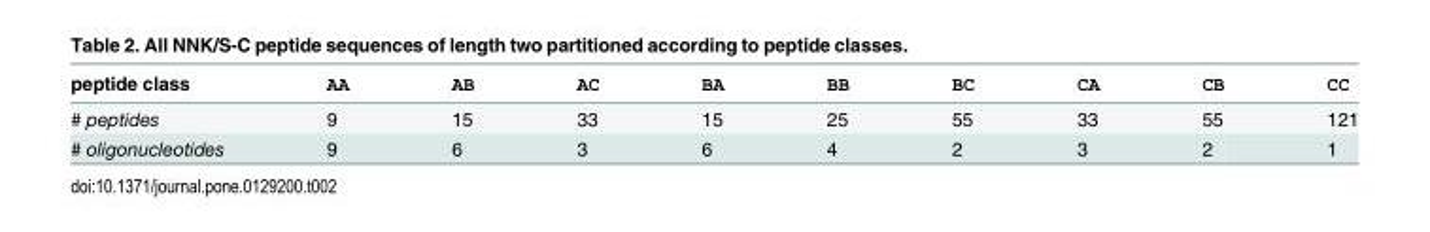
<table><thead><tr><td>peptide class</td><td>AA</td><td>AB</td><td>AC</td><td>BA</td><td>BB</td><td>BC</td><td>CA</td><td>CB</td><td>CC</td></tr></thead><tbody><tr><td># peptides</td><td>9</td><td>15</td><td>33</td><td>15</td><td>25</td><td>55</td><td>33</td><td>55</td><td>121</td></tr><tr><td># oligonucleotides</td><td>9</td><td>6</td><td>3</td><td>6</td><td>4</td><td>2</td><td>3</td><td>2</td><td>1</td></tr></tbody></table>